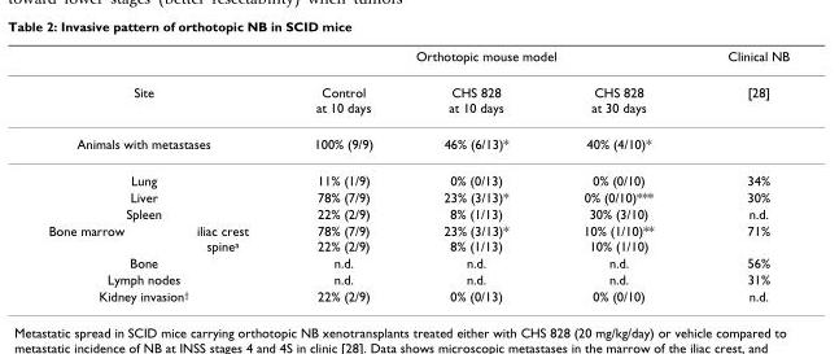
<table><thead><tr><td></td><td></td><td colspan="3">Orthotopic mouse model</td><td rowspan="2">Clinical NB [28]</td></tr><tr><td colspan="2">Site</td><td>Control at 10 days</td><td>CHS 828 at 10 days</td><td>CHS 828 at 30 days</td></tr></thead><tbody><tr><td colspan="2">Animals with metastases</td><td>100% (9/9)</td><td>46% (6/13)*</td><td>40% (4/10)*</td><td></td></tr><tr><td colspan="2">Lung</td><td>11% (1/9)</td><td>0% (0/13)</td><td>0% (0/10)</td><td>34%</td></tr><tr><td colspan="2">Liver</td><td>78% (7/9)</td><td>23% (3/13)*</td><td>0% (0/10)***</td><td>30%</td></tr><tr><td colspan="2">Spleen</td><td>22% (2/9)</td><td>8% (1/13)</td><td>30% (3/10)</td><td>n.d.</td></tr><tr><td>Bone marrow</td><td>iliac crest spine<sup>a</sup></td><td>78% (7/9) 22% (2/9)</td><td>23% (3/13)* 8% (1/13)</td><td>10% (1/10)** 10% (1/10)</td><td>71%</td></tr><tr><td colspan="2">Bone</td><td>n.d.</td><td>n.d.</td><td>n.d.</td><td>56%</td></tr><tr><td colspan="2">Lymph nodes</td><td>n.d.</td><td>n.d.</td><td>n.d.</td><td>31%</td></tr><tr><td colspan="2">Kidney invasion<sup>†</sup></td><td>22% (2/9)</td><td>0% (0/13)</td><td>0% (0/10)</td><td>n.d.</td></tr></tbody></table>